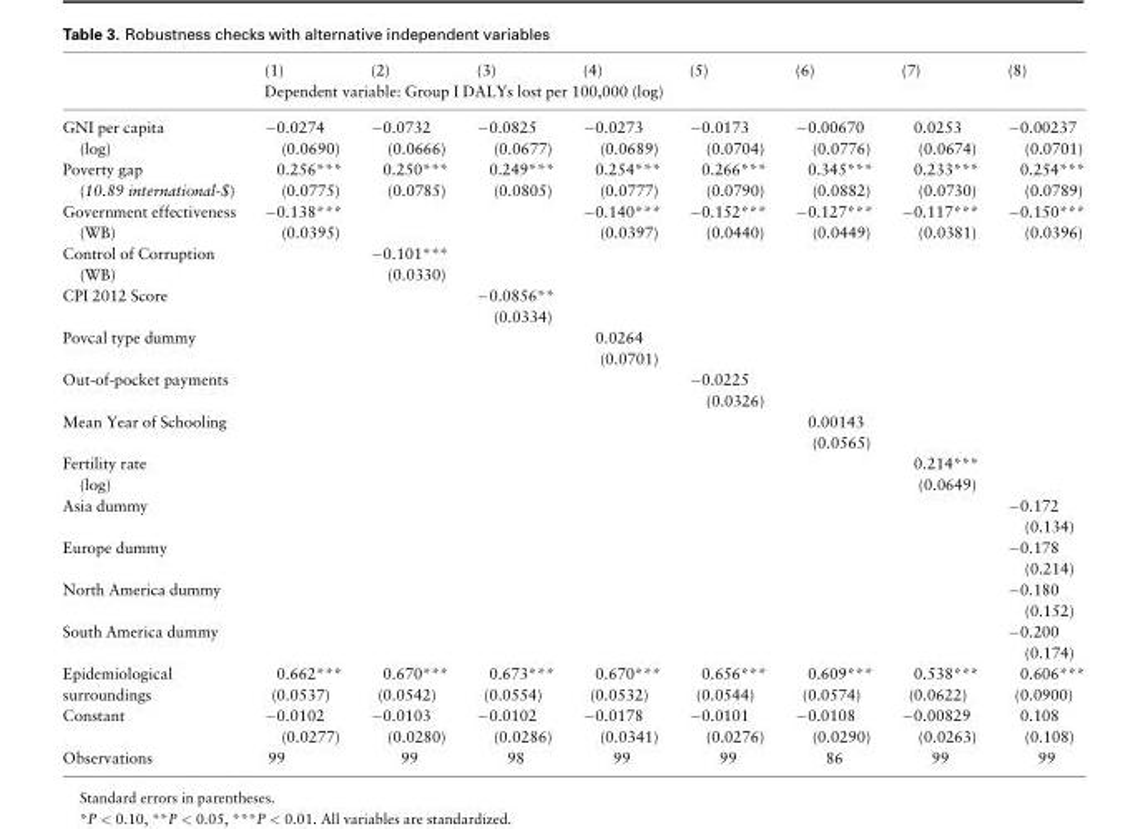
<table><thead><tr><td rowspan="2"></td><td>(1)</td><td>(2)</td><td>(3)</td><td>(4)</td><td>(5)</td><td>(6)</td><td>(7)</td><td>(8)</td></tr><tr><td colspan="8">Dependent variable: Group I DALYs lost per 100,000 (log)</td></tr></thead><tbody><tr><td>GNI per capita (log)</td><td>−0.0274 (0.0690)</td><td>−0.0732 (0.0666)</td><td>−0.0825 (0.0677)</td><td>−0.0273 (0.0689)</td><td>−0.0173 (0.0704)</td><td>−0.00670 (0.0776)</td><td>0.0253 (0.0674)</td><td>−0.00237 (0.0701)</td></tr><tr><td>Poverty gap (10.89 international-$)</td><td>0.256*** (0.0775)</td><td>0.250*** (0.0785)</td><td>0.249*** (0.0805)</td><td>0.254*** (0.0777)</td><td>0.266*** (0.0790)</td><td>0.345*** (0.0882)</td><td>0.233*** (0.0730)</td><td>0.254*** (0.0789)</td></tr><tr><td>Government effectiveness (WB)</td><td>−0.138*** (0.0395)</td><td></td><td></td><td>−0.140*** (0.0397)</td><td>−0.152*** (0.0440)</td><td>−0.127*** (0.0449)</td><td>−0.117*** (0.0381)</td><td>−0.150*** (0.0396)</td></tr><tr><td>Control of Corruption (WB)</td><td></td><td>−0.101*** (0.0330)</td><td></td><td></td><td></td><td></td><td></td><td></td></tr><tr><td>CPI 2012 Score</td><td></td><td></td><td>−0.0856** (0.0334)</td><td></td><td></td><td></td><td></td><td></td></tr><tr><td>Povcal type dummy</td><td></td><td></td><td></td><td>0.0264 (0.0701)</td><td></td><td></td><td></td><td></td></tr><tr><td>Out-of-pocket payments</td><td></td><td></td><td></td><td></td><td>−0.0225 (0.0326)</td><td></td><td></td><td></td></tr><tr><td>Mean Year of Schooling</td><td></td><td></td><td></td><td></td><td></td><td>0.00143 (0.0565)</td><td></td><td></td></tr><tr><td>Fertility rate (log)</td><td></td><td></td><td></td><td></td><td></td><td></td><td>0.214*** (0.0649)</td><td></td></tr><tr><td>Asia dummy</td><td></td><td></td><td></td><td></td><td></td><td></td><td></td><td>−0.172 (0.134)</td></tr><tr><td>Europe dummy</td><td></td><td></td><td></td><td></td><td></td><td></td><td></td><td>−0.178 (0.214)</td></tr><tr><td>North America dummy</td><td></td><td></td><td></td><td></td><td></td><td></td><td></td><td>−0.180 (0.152)</td></tr><tr><td>South America dummy</td><td></td><td></td><td></td><td></td><td></td><td></td><td></td><td>−0.200 (0.174)</td></tr><tr><td>Epidemiological</td><td>0.662***</td><td>0.670***</td><td>0.673***</td><td>0.670***</td><td>0.656***</td><td>0.609***</td><td>0.538***</td><td>0.606***</td></tr><tr><td>surroundings</td><td>(0.0537)</td><td>(0.0542)</td><td>(0.0554)</td><td>(0.0532)</td><td>(0.0544)</td><td>(0.0574)</td><td>(0.0622)</td><td>(0.0900)</td></tr><tr><td>Constant</td><td>−0.0102 (0.0277)</td><td>−0.0103 (0.0280)</td><td>−0.0102 (0.0286)</td><td>−0.0178 (0.0341)</td><td>−0.0101 (0.0276)</td><td>−0.0108 (0.0290)</td><td>−0.00829 (0.0263)</td><td>0.108 (0.108)</td></tr><tr><td>Observations</td><td>99</td><td>99</td><td>98</td><td>99</td><td>99</td><td>86</td><td>99</td><td>99</td></tr></tbody></table>